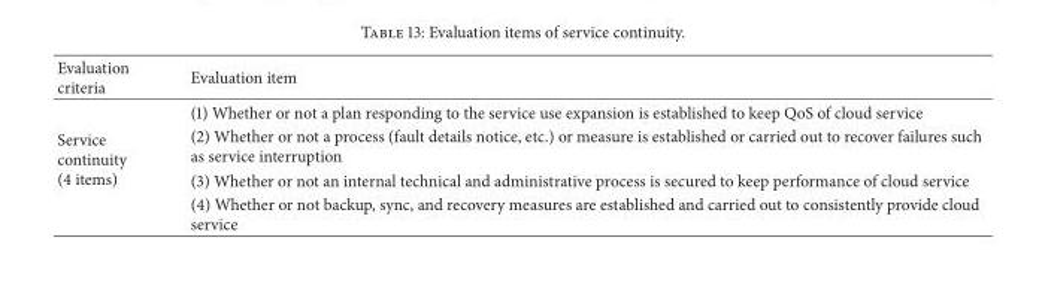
<table><thead><tr><td>Evaluation criteria</td><td>Evaluation item</td></tr></thead><tbody><tr><td rowspan="4">Service continuity (4 items)</td><td>(1) Whether or not a plan responding to the service use expansion is established to keep QoS of cloud service</td></tr><tr><td>(2) Whether or not a process (fault details notice, etc.) or measure is established or carried out to recover failures such as service interruption</td></tr><tr><td>(3) Whether or not an internal technical and administrative process is secured to keep performance of cloud service</td></tr><tr><td>(4) Whether or not backup, sync, and recovery measures are established and carried out to consistently provide cloud service</td></tr></tbody></table>